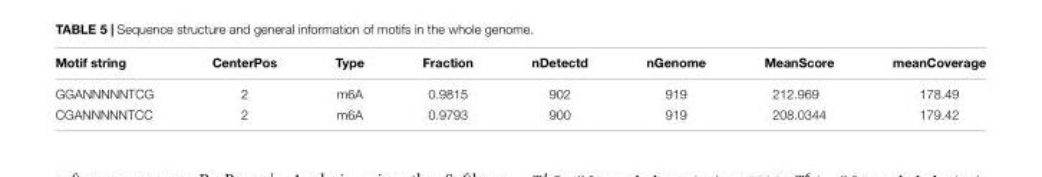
<table><thead><tr><td>Motif string</td><td>CenterPos</td><td>Type</td><td>Fraction</td><td>nDetectd</td><td>nGenome</td><td>MeanScore</td><td>meanCoverage</td></tr></thead><tbody><tr><td>GGANNNNNTCG</td><td>2</td><td>m6A</td><td>0.9815</td><td>902</td><td>919</td><td>212.969</td><td>178.49</td></tr><tr><td>CGANNNNNTCC</td><td>2</td><td>m6A</td><td>0.9793</td><td>900</td><td>919</td><td>208.0344</td><td>179.42</td></tr></tbody></table>